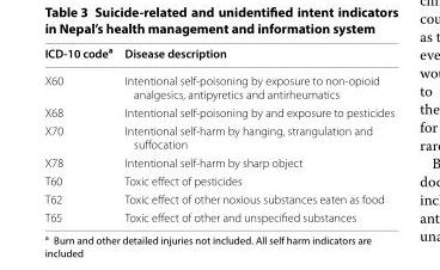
<table><thead><tr><td>ICD‑10 code<sup>a</sup></td><td>Disease description</td></tr></thead><tbody><tr><td>X60</td><td>Intentional self-poisoning by exposure to non-opioid analgesics, antipyretics and antirheumatics</td></tr><tr><td>X68</td><td>Intentional self-poisoning by and exposure to pesticides</td></tr><tr><td>X70</td><td>Intentional self-harm by hanging, strangulation and suffocation</td></tr><tr><td>X78</td><td>Intentional self-harm by sharp object</td></tr><tr><td>T60</td><td>Toxic effect of pesticides</td></tr><tr><td>T62</td><td>Toxic effect of other noxious substances eaten as food</td></tr><tr><td>T65</td><td>Toxic effect of other and unspecified substances</td></tr></tbody></table>